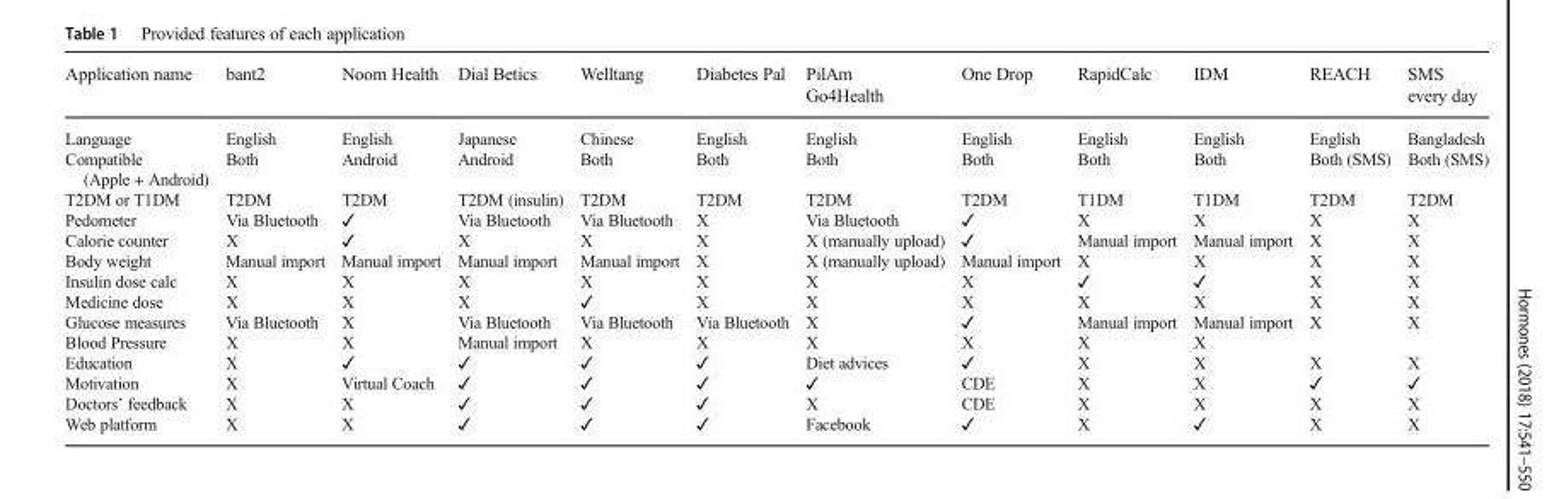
<table><thead><tr><td>Application name</td><td>bant2</td><td>Noom Health</td><td>Dial Betics</td><td>Welltang</td><td>Diabetes Pal</td><td>PilAm Go4Health</td><td>One Drop</td><td>RapidCalc</td><td>IDM</td><td>REACH</td><td>SMS every day</td></tr></thead><tbody><tr><td>Language</td><td>English</td><td>English</td><td>Japanese</td><td>Chinese</td><td>English</td><td>English</td><td>English</td><td>English</td><td>English</td><td>English</td><td>Bangladesh</td></tr><tr><td>Compatible (Apple + Android)</td><td>Both</td><td>Android</td><td>Android</td><td>Both</td><td>Both</td><td>Both</td><td>Both</td><td>Both</td><td>Both</td><td>Both (SMS)</td><td>Both (SMS)</td></tr><tr><td>T2DM or T1DM</td><td>T2DM</td><td>T2DM</td><td>T2DM (insulin)</td><td>T2DM</td><td>T2DM</td><td>T2DM</td><td>T2DM</td><td>T1DM</td><td>T1DM</td><td>T2DM</td><td>T2DM</td></tr><tr><td>Pedometer</td><td>Via Bluetooth</td><td>✓</td><td>Via Bluetooth</td><td>Via Bluetooth</td><td>X</td><td>Via Bluetooth</td><td>✓</td><td>X</td><td>X</td><td>X</td><td>X</td></tr><tr><td>Calorie counter</td><td>X</td><td>✓</td><td>X</td><td>X</td><td>X</td><td>X (manually upload)</td><td>✓</td><td>Manual import</td><td>Manual import</td><td>X</td><td>X</td></tr><tr><td>Body weight</td><td>Manual import</td><td>Manual import</td><td>Manual import</td><td>Manual import</td><td>X</td><td>X (manually upload)</td><td>Manual import</td><td>X</td><td>X</td><td>X</td><td>X</td></tr><tr><td>Insulin dose calc</td><td>X</td><td>X</td><td>X</td><td>X</td><td>X</td><td>X</td><td>X</td><td>✓</td><td>✓</td><td>X</td><td>X</td></tr><tr><td>Medicine dose</td><td>X</td><td>X</td><td>X</td><td>✓</td><td>X</td><td>X</td><td>X</td><td>X</td><td>X</td><td>X</td><td>X</td></tr><tr><td>Glucose measures</td><td>Via Bluetooth</td><td>X</td><td>Via Bluetooth</td><td>Via Bluetooth</td><td>Via Bluetooth</td><td>X</td><td>✓</td><td>Manual import</td><td>Manual import</td><td>X</td><td>X</td></tr><tr><td>Blood Pressure</td><td>X</td><td>X</td><td>Manual import</td><td>X</td><td>X</td><td>X</td><td>X</td><td>X</td><td>X</td><td></td><td></td></tr><tr><td>Education</td><td>X</td><td>✓</td><td>✓</td><td>✓</td><td>✓</td><td>Diet advices</td><td>✓</td><td>X</td><td>X</td><td>X</td><td>X</td></tr><tr><td>Motivation</td><td>X</td><td>Virtual Coach</td><td>✓</td><td>✓</td><td>✓</td><td>✓</td><td>CDE</td><td>X</td><td>X</td><td>✓</td><td>✓</td></tr><tr><td>Doctors’ feedback</td><td>X</td><td>X</td><td>✓</td><td>✓</td><td>✓</td><td>X</td><td>CDE</td><td>X</td><td>X</td><td>X</td><td>X</td></tr><tr><td>Web platform</td><td>X</td><td>X</td><td>✓</td><td>✓</td><td>✓</td><td>Facebook</td><td>✓</td><td>X</td><td>✓</td><td>X</td><td>X</td></tr></tbody></table>